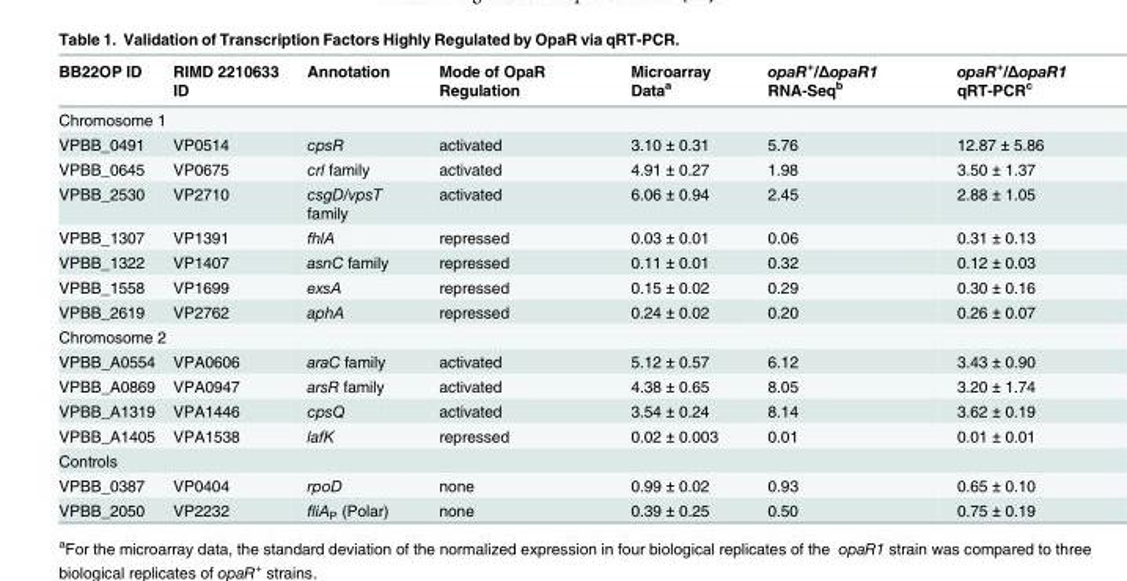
<table><thead><tr><td>BB22OP ID</td><td>RIMD 2210633 ID</td><td>Annotation</td><td>Mode of OpaR Regulation</td><td>Microarray Data<sup>a</sup></td><td>opaR<sup>+</sup>/ΔopaR1 RNA-Seq<sup>b</sup></td><td>opaR<sup>+</sup>/ΔopaR1 qRT-PCR<sup>c</sup></td></tr></thead><tbody><tr><td colspan="7">Chromosome 1</td></tr><tr><td>VPBB_0491</td><td>VP0514</td><td>cpsR</td><td>activated</td><td>3.10 ± 0.31</td><td>5.76</td><td>12.87 ± 5.86</td></tr><tr><td>VPBB_0645</td><td>VP0675</td><td>crl family</td><td>activated</td><td>4.91 ± 0.27</td><td>1.98</td><td>3.50 ± 1.37</td></tr><tr><td>VPBB_2530</td><td>VP2710</td><td>csgD/vpsT family</td><td>activated</td><td>6.06 ± 0.94</td><td>2.45</td><td>2.88 ± 1.05</td></tr><tr><td>VPBB_1307</td><td>VP1391</td><td>fhlA</td><td>repressed</td><td>0.03 ± 0.01</td><td>0.06</td><td>0.31 ± 0.13</td></tr><tr><td>VPBB_1322</td><td>VP1407</td><td>asnC family</td><td>repressed</td><td>0.11 ± 0.01</td><td>0.32</td><td>0.12 ± 0.03</td></tr><tr><td>VPBB_1558</td><td>VP1699</td><td>exsA</td><td>repressed</td><td>0.15 ± 0.02</td><td>0.29</td><td>0.30 ± 0.16</td></tr><tr><td>VPBB_2619</td><td>VP2762</td><td>aphA</td><td>repressed</td><td>0.24 ± 0.02</td><td>0.20</td><td>0.26 ± 0.07</td></tr><tr><td colspan="7">Chromosome 2</td></tr><tr><td>VPBB_A0554</td><td>VPA0606</td><td>araC family</td><td>activated</td><td>5.12 ± 0.57</td><td>6.12</td><td>3.43 ± 0.90</td></tr><tr><td>VPBB_A0869</td><td>VPA0947</td><td>arsR family</td><td>activated</td><td>4.38 ± 0.65</td><td>8.05</td><td>3.20 ± 1.74</td></tr><tr><td>VPBB_A1319</td><td>VPA1446</td><td>cpsQ</td><td>activated</td><td>3.54 ± 0.24</td><td>8.14</td><td>3.62 ± 0.19</td></tr><tr><td>VPBB_A1405</td><td>VPA1538</td><td>lafK</td><td>repressed</td><td>0.02 ± 0.003</td><td>0.01</td><td>0.01 ± 0.01</td></tr><tr><td colspan="7">Controls</td></tr><tr><td>VPBB_0387</td><td>VP0404</td><td>rpoD</td><td>none</td><td>0.99 ± 0.02</td><td>0.93</td><td>0.65 ± 0.10</td></tr><tr><td>VPBB_2050</td><td>VP2232</td><td>fliA<sub>P</sub> (Polar)</td><td>none</td><td>0.39 ± 0.25</td><td>0.50</td><td>0.75 ± 0.19</td></tr></tbody></table>